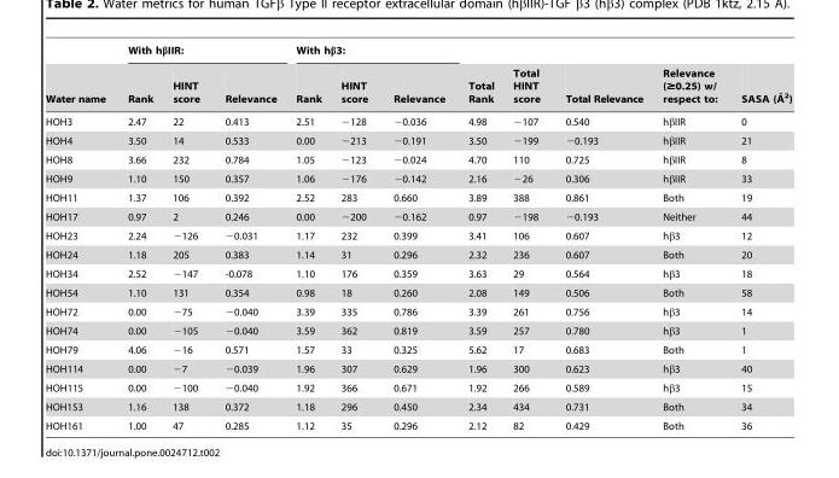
<table><thead><tr><td rowspan="2">Water name</td><td colspan="3">With hβIIR:</td><td colspan="3">With hβ3:</td><td rowspan="2">Total Rank</td><td rowspan="2">Total HINT score</td><td rowspan="2">Total Relevance</td><td rowspan="2">Relevance (≥0.25) w/ respect to:</td><td rowspan="2">SASA (A˚ 2)</td></tr><tr><td>Rank</td><td>HINT score</td><td>Relevance</td><td>Rank</td><td>HINT score</td><td>Relevance</td></tr></thead><tbody><tr><td>HOH3</td><td>2.47</td><td>22</td><td>0.413</td><td>2.51</td><td>−128</td><td>−0.036</td><td>4.98</td><td>−107</td><td>0.540</td><td>hβIIR</td><td>0</td></tr><tr><td>HOH4</td><td>3.50</td><td>14</td><td>0.533</td><td>0.00</td><td>−213</td><td>−0.191</td><td>3.50</td><td>−199</td><td>−0.193</td><td>hβIIR</td><td>21</td></tr><tr><td>HOH8</td><td>3.66</td><td>232</td><td>0.784</td><td>1.05</td><td>−123</td><td>−0.024</td><td>4.70</td><td>110</td><td>0.725</td><td>hβIIR</td><td>8</td></tr><tr><td>HOH9</td><td>1.10</td><td>150</td><td>0.357</td><td>1.06</td><td>−176</td><td>−0.142</td><td>2.16</td><td>−26</td><td>0.306</td><td>hβIIR</td><td>33</td></tr><tr><td>HOH11</td><td>1.37</td><td>106</td><td>0.392</td><td>2.52</td><td>283</td><td>0.660</td><td>3.89</td><td>388</td><td>0.861</td><td>Both</td><td>19</td></tr><tr><td>HOH17</td><td>0.97</td><td>2</td><td>0.246</td><td>0.00</td><td>−200</td><td>−0.162</td><td>0.97</td><td>−198</td><td>−0.193</td><td>Neither</td><td>44</td></tr><tr><td>HOH23</td><td>2.24</td><td>−126</td><td>−0.031</td><td>1.17</td><td>232</td><td>0.399</td><td>3.41</td><td>106</td><td>0.607</td><td>hβ3</td><td>12</td></tr><tr><td>HOH24</td><td>1.18</td><td>205</td><td>0.383</td><td>1.14</td><td>31</td><td>0.296</td><td>2.32</td><td>236</td><td>0.607</td><td>Both</td><td>20</td></tr><tr><td>HOH34</td><td>2.52</td><td>−147</td><td>-0.078</td><td>1.10</td><td>176</td><td>0.359</td><td>3.63</td><td>29</td><td>0.564</td><td>hβ3</td><td>18</td></tr><tr><td>HOH54</td><td>1.10</td><td>131</td><td>0.354</td><td>0.98</td><td>18</td><td>0.260</td><td>2.08</td><td>149</td><td>0.506</td><td>Both</td><td>58</td></tr><tr><td>HOH72</td><td>0.00</td><td>−75</td><td>−0.040</td><td>3.39</td><td>335</td><td>0.786</td><td>3.39</td><td>261</td><td>0.756</td><td>hβ3</td><td>14</td></tr><tr><td>HOH74</td><td>0.00</td><td>−105</td><td>−0.040</td><td>3.59</td><td>362</td><td>0.819</td><td>3.59</td><td>257</td><td>0.780</td><td>hβ3</td><td>1</td></tr><tr><td>HOH79</td><td>4.06</td><td>−16</td><td>0.571</td><td>1.57</td><td>33</td><td>0.325</td><td>5.62</td><td>17</td><td>0.683</td><td>Both</td><td>1</td></tr><tr><td>HOH114</td><td>0.00</td><td>−7</td><td>−0.039</td><td>1.96</td><td>307</td><td>0.629</td><td>1.96</td><td>300</td><td>0.623</td><td>hβ3</td><td>40</td></tr><tr><td>HOH115</td><td>0.00</td><td>−100</td><td>−0.040</td><td>1.92</td><td>366</td><td>0.671</td><td>1.92</td><td>266</td><td>0.589</td><td>hβ3</td><td>15</td></tr><tr><td>HOH153</td><td>1.16</td><td>138</td><td>0.372</td><td>1.18</td><td>296</td><td>0.450</td><td>2.34</td><td>434</td><td>0.731</td><td>Both</td><td>34</td></tr><tr><td>HOH161</td><td>1.00</td><td>47</td><td>0.285</td><td>1.12</td><td>35</td><td>0.296</td><td>2.12</td><td>82</td><td>0.429</td><td>Both</td><td>36</td></tr></tbody></table>